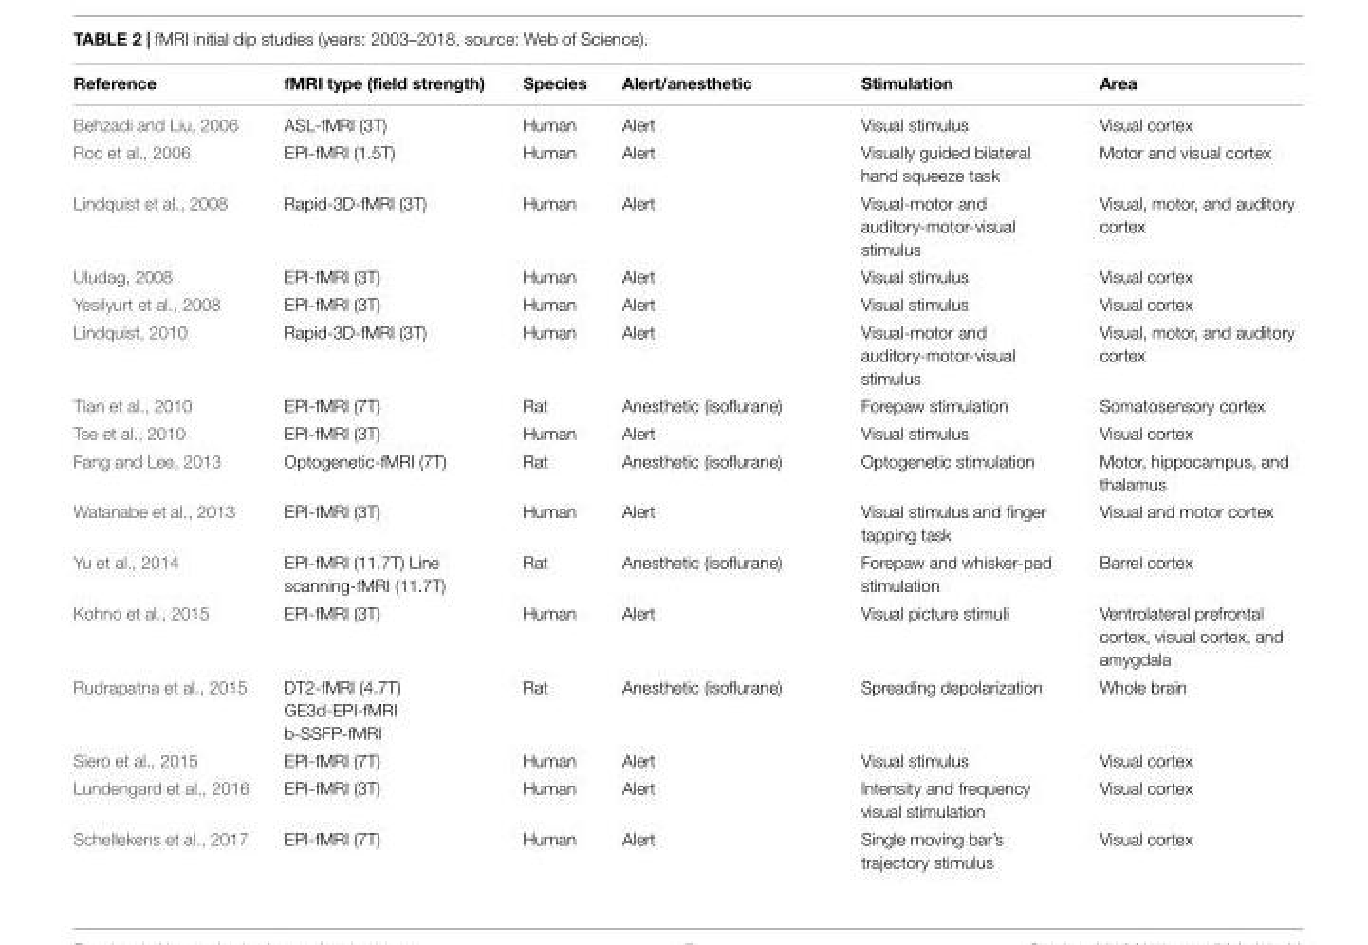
<table><thead><tr><td>Reference</td><td>fMRI type (field strength)</td><td>Species</td><td>Alert/anesthetic</td><td>Stimulation</td><td>Area</td></tr></thead><tbody><tr><td>Behzadi and Liu, 2006</td><td>ASL-fMRI (3T)</td><td>Human</td><td>Alert</td><td>Visual stimulus</td><td>Visual cortex</td></tr><tr><td>Roc et al., 2006</td><td>EPI-fMRI (1.5T)</td><td>Human</td><td>Alert</td><td>Visually guided bilateral hand squeeze task</td><td>Motor and visual cortex</td></tr><tr><td>Lindquist et al., 2008</td><td>Rapid-3D-fMRI (3T)</td><td>Human</td><td>Alert</td><td>Visual-motor and auditory-motor-visual stimulus</td><td>Visual, motor, and auditory cortex</td></tr><tr><td>Uludag, 2008</td><td>EPI-fMRI (3T)</td><td>Human</td><td>Alert</td><td>Visual stimulus</td><td>Visual cortex</td></tr><tr><td>Yesilyurt et al., 2008</td><td>EPI-fMRI (3T)</td><td>Human</td><td>Alert</td><td>Visual stimulus</td><td>Visual cortex</td></tr><tr><td>Lindquist, 2010</td><td>Rapid-3D-fMRI (3T)</td><td>Human</td><td>Alert</td><td>Visual-motor and auditory-motor-visual stimulus</td><td>Visual, motor, and auditory cortex</td></tr><tr><td>Tian et al., 2010</td><td>EPI-fMRI (7T)</td><td>Rat</td><td>Anesthetic (isoflurane)</td><td>Forepaw stimulation</td><td>Somatosensory cortex</td></tr><tr><td>Tse et al., 2010</td><td>EPI-fMRI (3T)</td><td>Human</td><td>Alert</td><td>Visual stimulus</td><td>Visual cortex</td></tr><tr><td>Fang and Lee, 2013</td><td>Optogenetic-fMRI (7T)</td><td>Rat</td><td>Anesthetic (isoflurane)</td><td>Optogenetic stimulation</td><td>Motor, hippocampus, and thalamus</td></tr><tr><td>Watanabe et al., 2013</td><td>EPI-fMRI (3T)</td><td>Human</td><td>Alert</td><td>Visual stimulus and finger tapping task</td><td>Visual and motor cortex</td></tr><tr><td>Yu et al., 2014</td><td>EPI-fMRI (11.7T) Line scanning-fMRI (11.7T)</td><td>Rat</td><td>Anesthetic (isoflurane)</td><td>Forepaw and whisker-pad stimulation</td><td>Barrel cortex</td></tr><tr><td>Kohno et al., 2015</td><td>EPI-fMRI (3T)</td><td>Human</td><td>Alert</td><td>Visual picture stimuli</td><td>Ventrolateral prefrontal cortex, visual cortex, and amygdala</td></tr><tr><td>Rudrapatna et al., 2015</td><td>DT2-fMRI (4.7T) GE3d-EPI-fMRI b-SSFP-fMRI</td><td>Rat</td><td>Anesthetic (isoflurane)</td><td>Spreading depolarization</td><td>Whole brain</td></tr><tr><td>Siero et al., 2015</td><td>EPI-fMRI (7T)</td><td>Human</td><td>Alert</td><td>Visual stimulus</td><td>Visual cortex</td></tr><tr><td>Lundengard et al., 2016</td><td>EPI-fMRI (3T)</td><td>Human</td><td>Alert</td><td>Intensity and frequency visual stimulation</td><td>Visual cortex</td></tr><tr><td>Schellekens et al., 2017</td><td>EPI-fMRI (7T)</td><td>Human</td><td>Alert</td><td>Single moving bar’s trajectory stimulus</td><td>Visual cortex</td></tr></tbody></table>